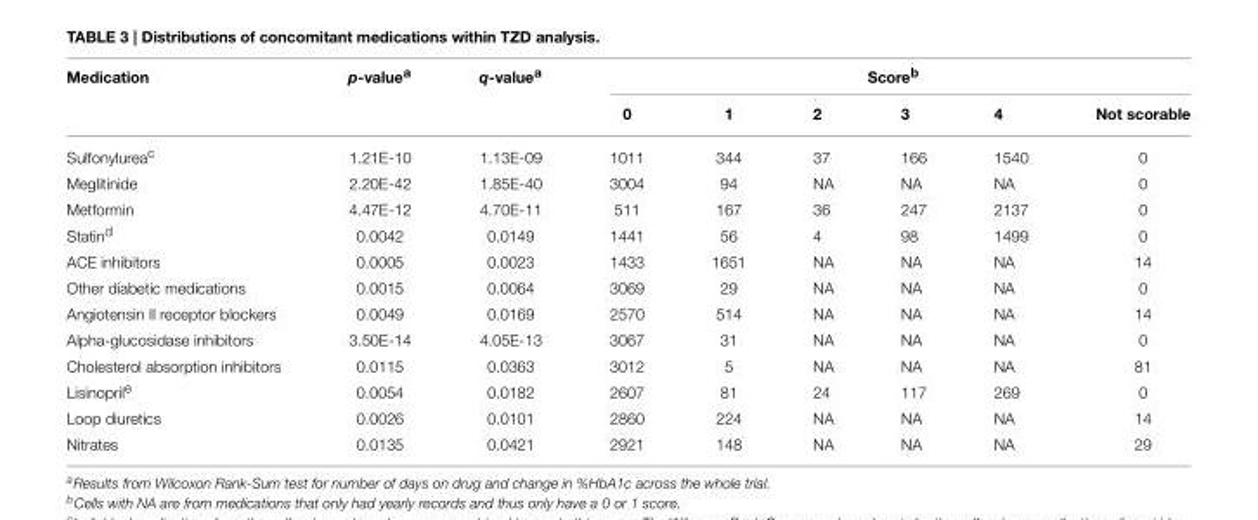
<table><thead><tr><td rowspan="2">Medication</td><td rowspan="2">p-value<sup>a</sup></td><td rowspan="2">q-value<sup>a</sup></td><td colspan="6">Score<sup>b</sup></td></tr><tr><td>0</td><td>1</td><td>2</td><td>3</td><td>4</td><td>Not scorable</td></tr></thead><tbody><tr><td>Sulfonylurea<sup>c</sup></td><td>1.21E-10</td><td>1.13E-09</td><td>1011</td><td>344</td><td>37</td><td>166</td><td>1540</td><td>0</td></tr><tr><td>Meglitinide</td><td>2.20E-42</td><td>1.85E-40</td><td>3004</td><td>94</td><td>NA</td><td>NA</td><td>NA</td><td>0</td></tr><tr><td>Metformin</td><td>4.47E-12</td><td>4.70E-11</td><td>511</td><td>167</td><td>36</td><td>247</td><td>2137</td><td>0</td></tr><tr><td>Statin<sup>d</sup></td><td>0.0042</td><td>0.0149</td><td>1441</td><td>56</td><td>4</td><td>98</td><td>1499</td><td>0</td></tr><tr><td>ACE inhibitors</td><td>0.0005</td><td>0.0023</td><td>1433</td><td>1651</td><td>NA</td><td>NA</td><td>NA</td><td>14</td></tr><tr><td>Other diabetic medications</td><td>0.0015</td><td>0.0064</td><td>3069</td><td>29</td><td>NA</td><td>NA</td><td>NA</td><td>0</td></tr><tr><td>Angiotensin II receptor blockers</td><td>0.0049</td><td>0.0169</td><td>2570</td><td>514</td><td>NA</td><td>NA</td><td>NA</td><td>14</td></tr><tr><td>Alpha-glucosidase inhibitors</td><td>3.50E-14</td><td>4.05E-13</td><td>3067</td><td>31</td><td>NA</td><td>NA</td><td>NA</td><td>0</td></tr><tr><td>Cholesterol absorption inhibitors</td><td>0.0115</td><td>0.0363</td><td>3012</td><td>5</td><td>NA</td><td>NA</td><td>NA</td><td>81</td></tr><tr><td>Lisinopril<sup>e</sup></td><td>0.0054</td><td>0.0182</td><td>2607</td><td>81</td><td>24</td><td>117</td><td>269</td><td>0</td></tr><tr><td>Loop diuretics</td><td>0.0026</td><td>0.0101</td><td>2860</td><td>224</td><td>NA</td><td>NA</td><td>NA</td><td>14</td></tr><tr><td>Nitrates</td><td>0.0135</td><td>0.0421</td><td>2921</td><td>148</td><td>NA</td><td>NA</td><td>NA</td><td>29</td></tr></tbody></table>